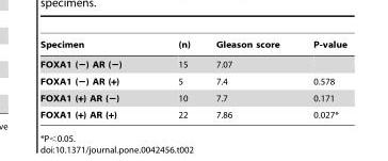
<table><thead><tr><td>Specimen</td><td>(n)</td><td>Gleason score</td><td>P-value</td></tr></thead><tbody><tr><td>FOXA1 (−) AR (−)</td><td>15</td><td>7.07</td><td></td></tr><tr><td>FOXA1 (−) AR (+)</td><td>5</td><td>7.4</td><td>0.578</td></tr><tr><td>FOXA1 (+) AR (−)</td><td>10</td><td>7.7</td><td>0.171</td></tr><tr><td>FOXA1 (+) AR (+)</td><td>22</td><td>7.86</td><td>0.027*</td></tr></tbody></table>